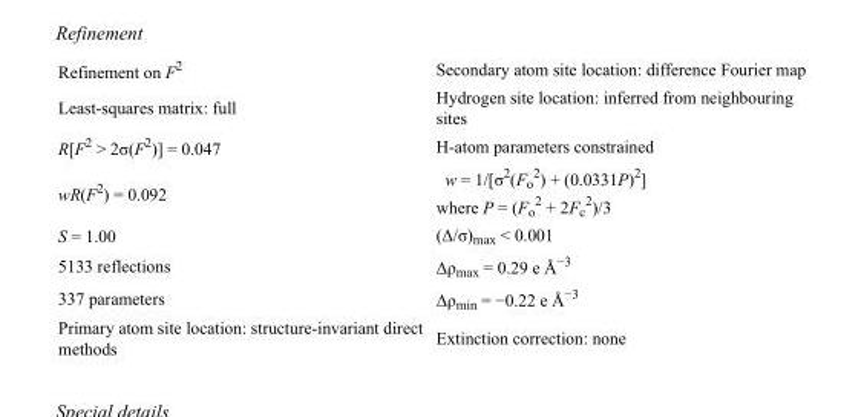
<table><tbody><tr><td>Refinement on F<sup>2</sup></td><td>Secondary atom site location: difference Fourier map</td></tr><tr><td>Least-squares matrix: full</td><td>Hydrogen site location: inferred from neighbouring sites</td></tr><tr><td>R[F<sup>2</sup> &gt; 2σ(F<sup>2</sup>)] = 0.047</td><td>H-atom parameters constrained</td></tr><tr><td>wR(F<sup>2</sup>) = 0.092</td><td>w = 1/[σ<sup>2</sup>(F<sub>o</sub> <sup>2</sup>) + (0.0331P)<sup>2</sup>] where P = (F<sub>o</sub> <sup>2</sup> + 2F<sub>c</sub> <sup>2</sup>)/3</td></tr><tr><td>S = 1.00</td><td>(Δ/σ)<sub>max</sub> &lt; 0.001</td></tr><tr><td>5133 reflections</td><td>Δρ<sub>max</sub> = 0.29 e Å<sup>−3</sup></td></tr><tr><td>337 parameters</td><td>Δρ<sub>min</sub> = −0.22 e Å<sup>−3</sup></td></tr><tr><td>Primary atom site location: structure-invariant direct methods</td><td>Extinction correction: none</td></tr></tbody></table>